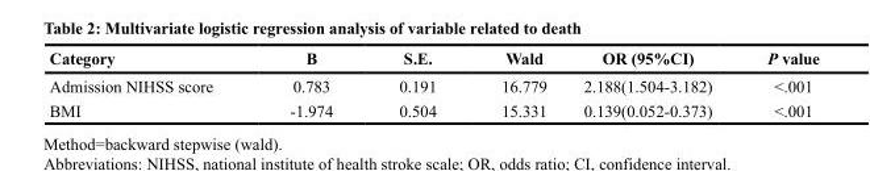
<table><thead><tr><td>Category</td><td>B</td><td>S.E.</td><td>Wald</td><td>OR (95%CI)</td><td>P value</td></tr></thead><tbody><tr><td>Admission NIHSS score</td><td>0.783</td><td>0.191</td><td>16.779</td><td>2.188(1.504-3.182)</td><td>&lt;.001</td></tr><tr><td>BMI</td><td>-1.974</td><td>0.504</td><td>15.331</td><td>0.139(0.052-0.373)</td><td>&lt;.001</td></tr></tbody></table>